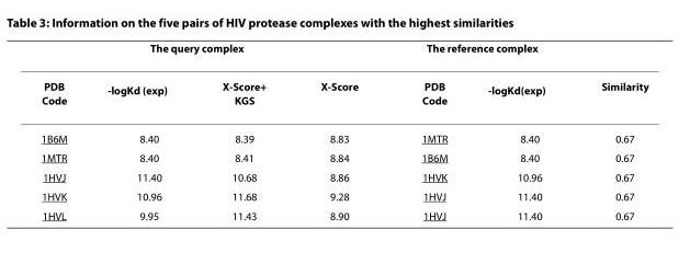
<table><thead><tr><td colspan="4">The query complex</td><td colspan="2">The reference complex</td><td rowspan="2">Similarity</td></tr><tr><td>PDB Code</td><td>-logK<sub>d</sub> (exp)</td><td>X-Score+ KGS</td><td>X-Score</td><td>PDB Code</td><td>-logK<sub>d</sub>(exp)</td></tr></thead><tbody><tr><td>1B6M</td><td>8.40</td><td>8.39</td><td>8.83</td><td>1MTR</td><td>8.40</td><td>0.67</td></tr><tr><td>1MTR</td><td>8.40</td><td>8.41</td><td>8.84</td><td>1B6M</td><td>8.40</td><td>0.67</td></tr><tr><td>1HVJ</td><td>11.40</td><td>10.68</td><td>8.86</td><td>1HVK</td><td>10.96</td><td>0.67</td></tr><tr><td>1HVK</td><td>10.96</td><td>11.68</td><td>9.28</td><td>1HVJ</td><td>11.40</td><td>0.67</td></tr><tr><td>1HVL</td><td>9.95</td><td>11.43</td><td>8.90</td><td>1HVJ</td><td>11.40</td><td>0.67</td></tr></tbody></table>